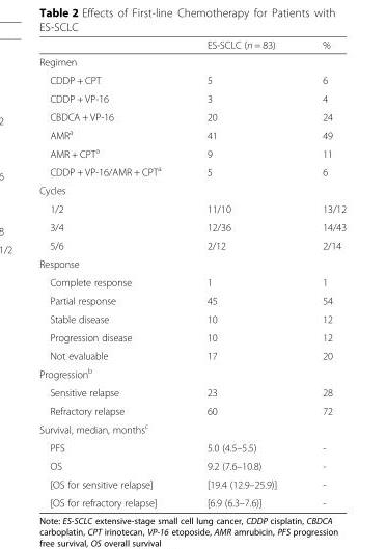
<table><thead><tr><td></td><td>ES-SCLC (n = 83)</td><td>%</td></tr></thead><tbody><tr><td colspan="3">Regimen</td></tr><tr><td>CDDP + CPT</td><td>5</td><td>6</td></tr><tr><td>CDDP + VP-16</td><td>3</td><td>4</td></tr><tr><td>CBDCA + VP-16</td><td>20</td><td>24</td></tr><tr><td>AMR<sup>a</sup></td><td>41</td><td>49</td></tr><tr><td>AMR + CPT<sup>a</sup></td><td>9</td><td>11</td></tr><tr><td>CDDP + VP-16/AMR + CPT<sup>a</sup></td><td>5</td><td>6</td></tr><tr><td colspan="3">Cycles</td></tr><tr><td>1/2</td><td>11/10</td><td>13/12</td></tr><tr><td>3/4</td><td>12/36</td><td>14/43</td></tr><tr><td>5/6</td><td>2/12</td><td>2/14</td></tr><tr><td colspan="3">Response</td></tr><tr><td>Complete response</td><td>1</td><td>1</td></tr><tr><td>Partial response</td><td>45</td><td>54</td></tr><tr><td>Stable disease</td><td>10</td><td>12</td></tr><tr><td>Progression disease</td><td>10</td><td>12</td></tr><tr><td>Not evaluable</td><td>17</td><td>20</td></tr><tr><td colspan="3">Progression<sup>b</sup></td></tr><tr><td>Sensitive relapse</td><td>23</td><td>28</td></tr><tr><td>Refractory relapse</td><td>60</td><td>72</td></tr><tr><td colspan="3">Survival, median, months<sup>c</sup></td></tr><tr><td>PFS</td><td>5.0 (4.5–5.5)</td><td>-</td></tr><tr><td>OS</td><td>9.2 (7.6–10.8)</td><td>-</td></tr><tr><td>[OS for sensitive relapse]</td><td>[19.4 (12.9–25.9)]</td><td>-</td></tr><tr><td>[OS for refractory relapse]</td><td>[6.9 (6.3–7.6)]</td><td>-</td></tr></tbody></table>